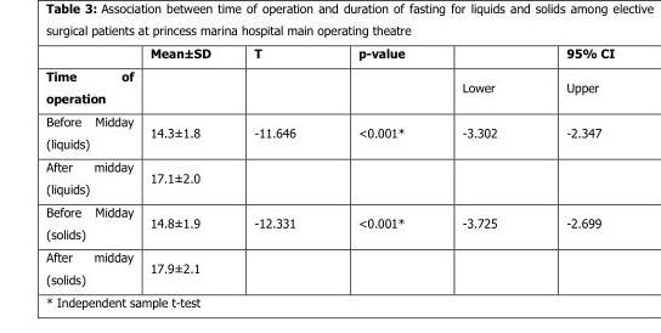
<table><thead><tr><td></td><td>Mean±SD</td><td>T</td><td>p-value</td><td></td><td>95% CI</td></tr></thead><tbody><tr><td>Time of operation</td><td></td><td></td><td></td><td>Lower</td><td>Upper</td></tr><tr><td>Before Midday (liquids)</td><td>14.3±1.8</td><td>-11.646</td><td>&lt;0.001*</td><td>-3.302</td><td>-2.347</td></tr><tr><td>After midday (liquids)</td><td>17.1±2.0</td><td></td><td></td><td></td><td></td></tr><tr><td>Before Midday (solids)</td><td>14.8±1.9</td><td>-12.331</td><td>&lt;0.001*</td><td>-3.725</td><td>-2.699</td></tr><tr><td>After midday (solids)</td><td>17.9±2.1</td><td></td><td></td><td></td><td></td></tr></tbody></table>